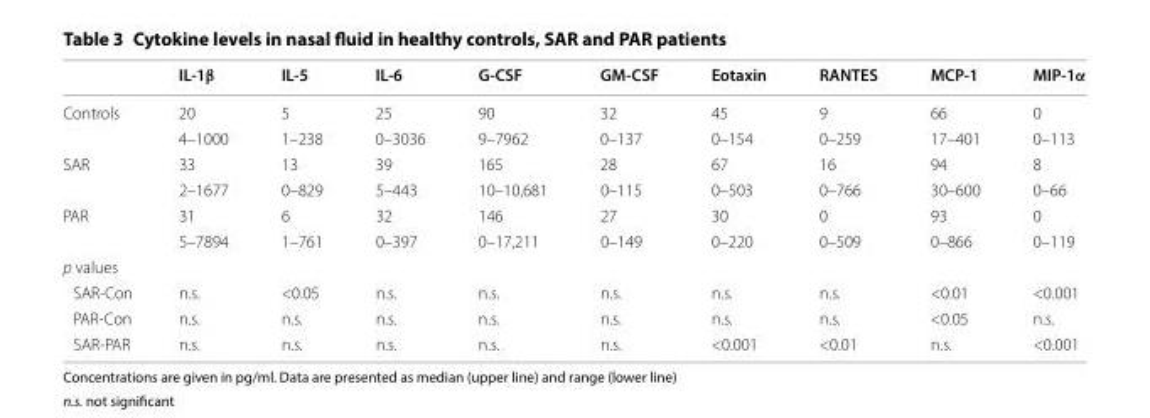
<table><thead><tr><td></td><td>IL-1β</td><td>IL-5</td><td>IL-6</td><td>G-CSF</td><td>GM-CSF</td><td>Eotaxin</td><td>RANTES</td><td>MCP-1</td><td>MIP-1α</td></tr></thead><tbody><tr><td rowspan="2">Controls</td><td>20</td><td>5</td><td>25</td><td>90</td><td>32</td><td>45</td><td>9</td><td>66</td><td>0</td></tr><tr><td>4–1000</td><td>1–238</td><td>0–3036</td><td>9–7962</td><td>0–137</td><td>0–154</td><td>0–259</td><td>17–401</td><td>0–113</td></tr><tr><td rowspan="2">SAR</td><td>33</td><td>13</td><td>39</td><td>165</td><td>28</td><td>67</td><td>16</td><td>94</td><td>8</td></tr><tr><td>2–1677</td><td>0–829</td><td>5–443</td><td>10–10,681</td><td>0–115</td><td>0–503</td><td>0–766</td><td>30–600</td><td>0–66</td></tr><tr><td rowspan="2">PAR</td><td>31</td><td>6</td><td>32</td><td>146</td><td>27</td><td>30</td><td>0</td><td>93</td><td>0</td></tr><tr><td>5–7894</td><td>1–761</td><td>0–397</td><td>0–17,211</td><td>0–149</td><td>0–220</td><td>0–509</td><td>0–866</td><td>0–119</td></tr><tr><td colspan="10">p values</td></tr><tr><td>SAR-Con</td><td>n.s.</td><td>&lt;0.05</td><td>n.s.</td><td>n.s.</td><td>n.s.</td><td>n.s.</td><td>n.s.</td><td>&lt;0.01</td><td>&lt;0.001</td></tr><tr><td>PAR-Con</td><td>n.s.</td><td>n.s.</td><td>n.s.</td><td>n.s.</td><td>n.s.</td><td>n.s.</td><td>n.s.</td><td>&lt;0.05</td><td>n.s.</td></tr><tr><td>SAR-PAR</td><td>n.s.</td><td>n.s.</td><td>n.s.</td><td>n.s.</td><td>n.s.</td><td>&lt;0.001</td><td>&lt;0.01</td><td>n.s.</td><td>&lt;0.001</td></tr></tbody></table>